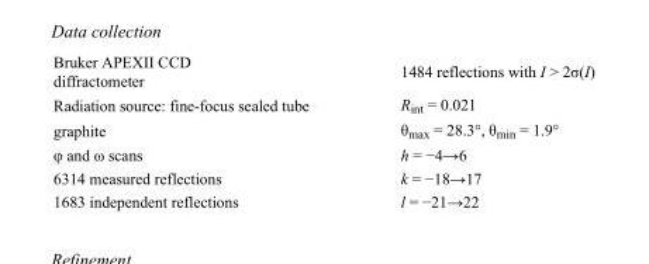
<table><tbody><tr><td>Bruker APEXII CCD diffractometer</td><td>1484 reflections with I &gt; 2σ(I)</td></tr><tr><td>Radiation source: fine-focus sealed tube</td><td>R<sub>int</sub> = 0.021</td></tr><tr><td>graphite</td><td>θ<sub>max</sub> = 28.3°, θ<sub>min</sub> = 1.9°</td></tr><tr><td>φ and ω scans</td><td>h = −4→6</td></tr><tr><td>6314 measured reflections</td><td>k = −18→17</td></tr><tr><td>1683 independent reflections</td><td>l = −21→22</td></tr></tbody></table>